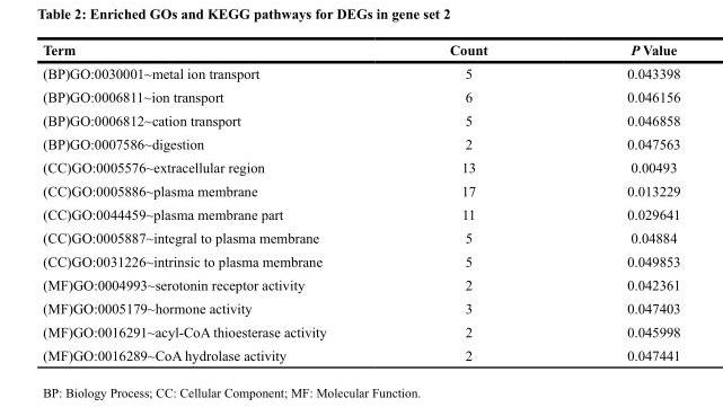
<table><thead><tr><td>term</td><td>count</td><td>P Value</td></tr></thead><tbody><tr><td>(BP)GO:0030001~metal ion transport</td><td>5</td><td>0.043398</td></tr><tr><td>(BP)GO:0006811~ion transport</td><td>6</td><td>0.046156</td></tr><tr><td>(BP)GO:0006812~cation transport</td><td>5</td><td>0.046858</td></tr><tr><td>(BP)GO:0007586~digestion</td><td>2</td><td>0.047563</td></tr><tr><td>(CC)GO:0005576~extracellular region</td><td>13</td><td>0.00493</td></tr><tr><td>(CC)GO:0005886~plasma membrane</td><td>17</td><td>0.013229</td></tr><tr><td>(CC)GO:0044459~plasma membrane part</td><td>11</td><td>0.029641</td></tr><tr><td>(CC)GO:0005887~integral to plasma membrane</td><td>5</td><td>0.04884</td></tr><tr><td>(CC)GO:0031226~intrinsic to plasma membrane</td><td>5</td><td>0.049853</td></tr><tr><td>(MF)GO:0004993~serotonin receptor activity</td><td>2</td><td>0.042361</td></tr><tr><td>(MF)GO:0005179~hormone activity</td><td>3</td><td>0.047403</td></tr><tr><td>(MF)GO:0016291~acyl-CoA thioesterase activity</td><td>2</td><td>0.045998</td></tr><tr><td>(MF)GO:0016289~CoA hydrolase activity</td><td>2</td><td>0.047441</td></tr></tbody></table>